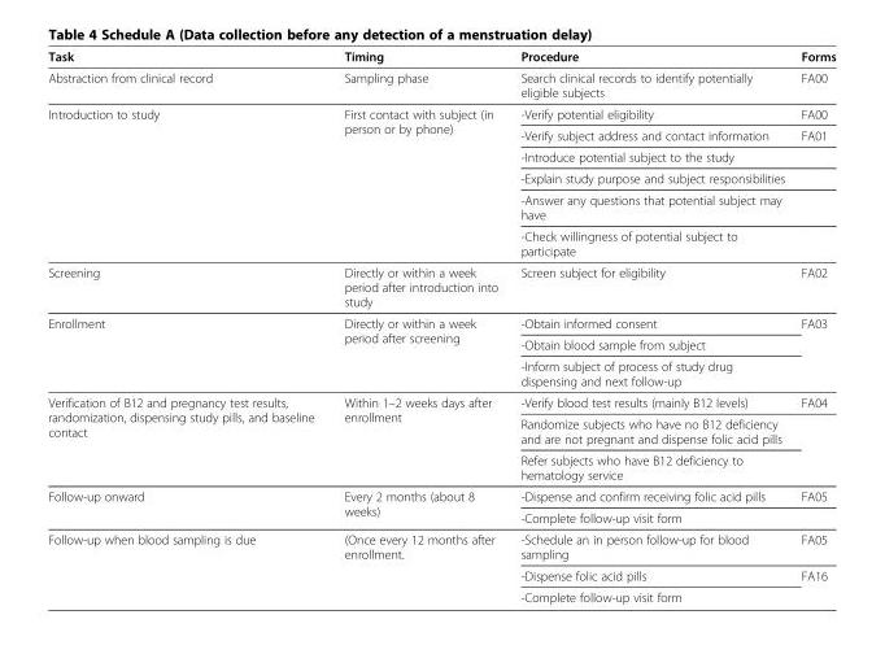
<table><thead><tr><td>Task</td><td>Timing</td><td>Procedure</td><td>Forms</td></tr></thead><tbody><tr><td>Abstraction from clinical record</td><td>Sampling phase</td><td>Search clinical records to identify potentially eligible subjects</td><td>FA00</td></tr><tr><td rowspan="6">Introduction to study</td><td rowspan="6">First contact with subject (in person or by phone)</td><td>-Verify potential eligibility</td><td>FA00</td></tr><tr><td>-Verify subject address and contact information</td><td>FA01</td></tr><tr><td>-Introduce potential subject to the study</td><td></td></tr><tr><td>-Explain study purpose and subject responsibilities</td><td></td></tr><tr><td>-Answer any questions that potential subject may have</td><td></td></tr><tr><td>-Check willingness of potential subject to participate</td><td></td></tr><tr><td>Screening</td><td>Directly or within a week period after introduction into study</td><td>Screen subject for eligibility</td><td>FA02</td></tr><tr><td rowspan="3">Enrollment</td><td rowspan="3">Directly or within a week period after screening</td><td>-Obtain informed consent</td><td rowspan="3">FA03</td></tr><tr><td>-Obtain blood sample from subject</td></tr><tr><td>-Inform subject of process of study drug dispensing and next follow-up</td></tr><tr><td rowspan="3">Verification of B12 and pregnancy test results, randomization, dispensing study pills, and baseline contact</td><td rowspan="3">Within 1–2 weeks days after enrollment</td><td>-Verify blood test results (mainly B12 levels)</td><td>FA04</td></tr><tr><td>Randomize subjects who have no B12 deficiency and are not pregnant and dispense folic acid pills</td><td rowspan="2"></td></tr><tr><td>Refer subjects who have B12 deficiency to hematology service</td></tr><tr><td rowspan="2">Follow-up onward</td><td rowspan="2">Every 2 months (about 8 weeks)</td><td>-Dispense and confirm receiving folic acid pills</td><td>FA05</td></tr><tr><td>-Complete follow-up visit form</td><td></td></tr><tr><td rowspan="3">Follow-up when blood sampling is due</td><td rowspan="3">(Once every 12 months after enrollment.</td><td>-Schedule an in person follow-up for blood sampling</td><td>FA05</td></tr><tr><td>-Dispense folic acid pills</td><td rowspan="2">FA16</td></tr><tr><td>-Complete follow-up visit form</td></tr></tbody></table>